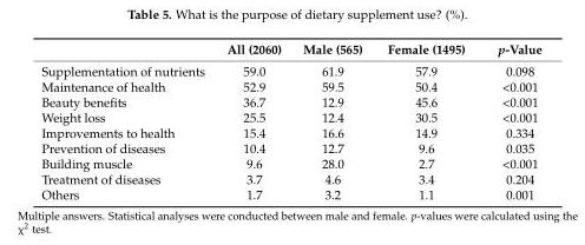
<table><thead><tr><td></td><td>All (2060)</td><td>Male (565)</td><td>Female (1495)</td><td>p-Value</td></tr></thead><tbody><tr><td>Supplementation of nutrients</td><td>59.0</td><td>61.9</td><td>57.9</td><td>0.098</td></tr><tr><td>Maintenance of health</td><td>52.9</td><td>59.5</td><td>50.4</td><td>&lt;0.001</td></tr><tr><td>Beauty benefits</td><td>36.7</td><td>12.9</td><td>45.6</td><td>&lt;0.001</td></tr><tr><td>Weight loss</td><td>25.5</td><td>12.4</td><td>30.5</td><td>&lt;0.001</td></tr><tr><td>Improvements to health</td><td>15.4</td><td>16.6</td><td>14.9</td><td>0.334</td></tr><tr><td>Prevention of diseases</td><td>10.4</td><td>12.7</td><td>9.6</td><td>0.035</td></tr><tr><td>Building muscle</td><td>9.6</td><td>28.0</td><td>2.7</td><td>&lt;0.001</td></tr><tr><td>Treatment of diseases</td><td>3.7</td><td>4.6</td><td>3.4</td><td>0.204</td></tr><tr><td>Others</td><td>1.7</td><td>3.2</td><td>1.1</td><td>0.001</td></tr></tbody></table>